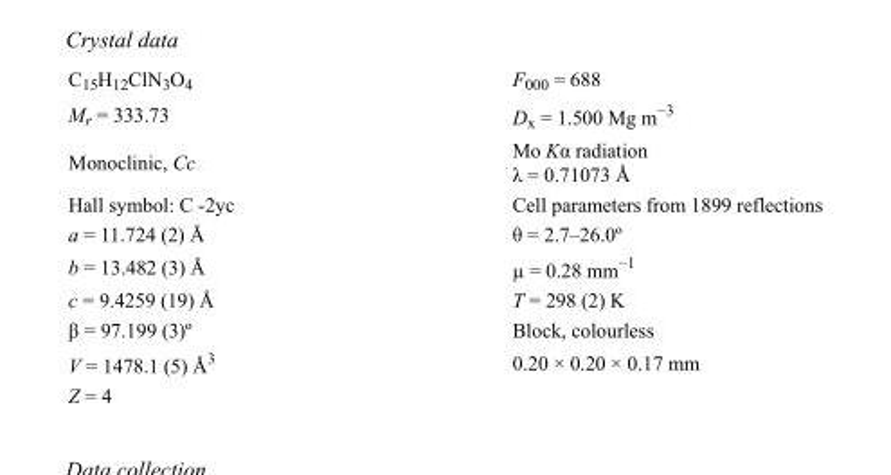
<table><tbody><tr><td>C<sub>15</sub>H<sub>12</sub>ClN<sub>3</sub>O<sub>4</sub></td><td>F000 = 688</td></tr><tr><td>M<sub>r</sub> = 333.73</td><td>D<sub>x</sub> = 1.500 Mg m<sup>−3</sup></td></tr><tr><td>Monoclinic, Cc</td><td>Mo Kα radiation λ = 0.71073 Å</td></tr><tr><td>Hall symbol: C -2yc</td><td>Cell parameters from 1899 reflections</td></tr><tr><td>a = 11.724 (2) Å</td><td>θ = 2.7–26.0º</td></tr><tr><td>b = 13.482 (3) Å</td><td>µ = 0.28 mm<sup>−1</sup></td></tr><tr><td>c = 9.4259 (19) Å</td><td>T = 298 (2) K</td></tr><tr><td>β = 97.199 (3)º</td><td>Block, colourless</td></tr><tr><td>V = 1478.1 (5) Å<sup>3</sup></td><td>0.20 × 0.20 × 0.17 mm</td></tr><tr><td>Z = 4</td><td></td></tr></tbody></table>